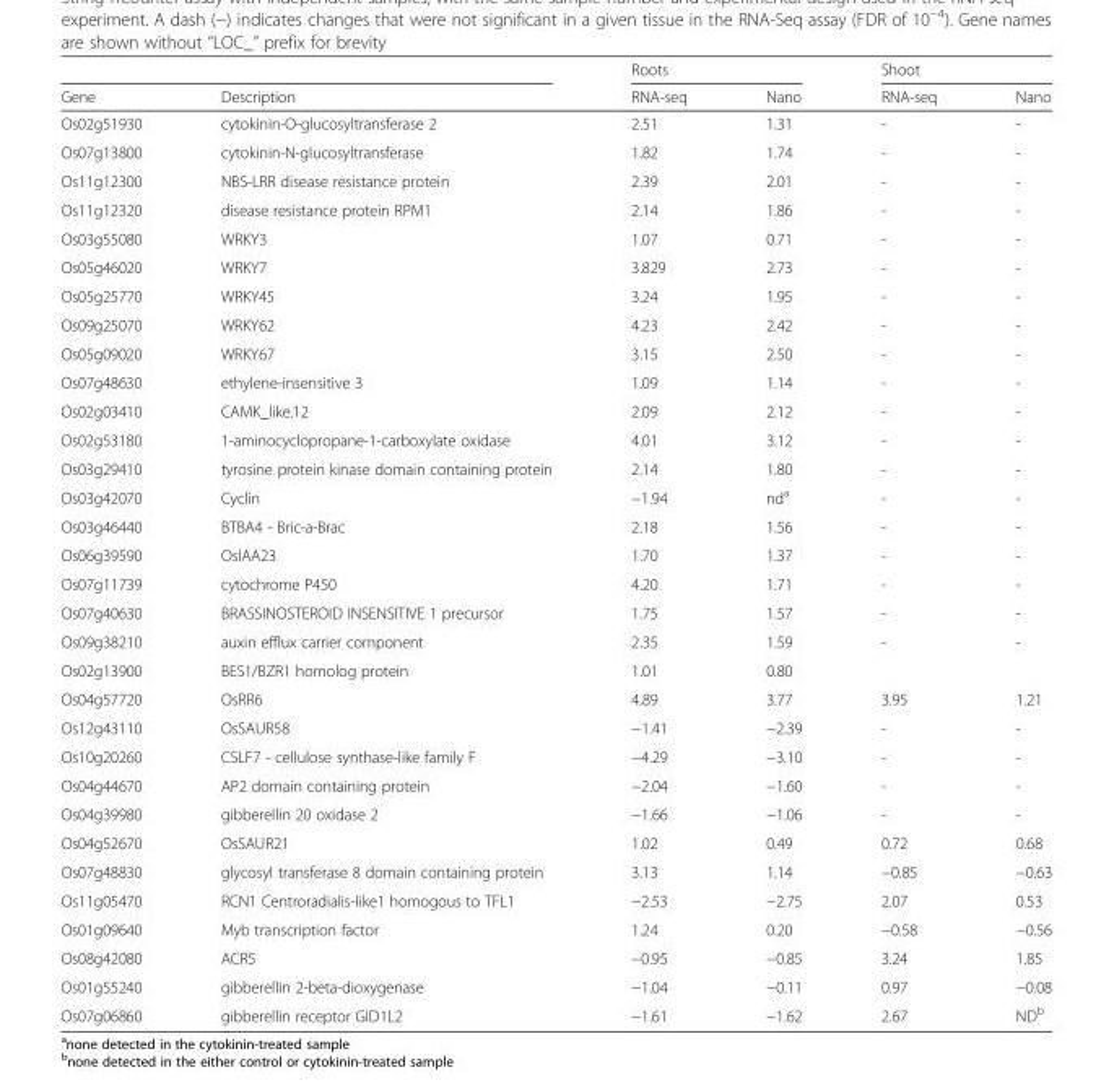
<table><thead><tr><td rowspan="2">Gene</td><td rowspan="2">Description</td><td colspan="2">Roots</td><td colspan="2">Shoot</td></tr><tr><td>RNA-seq</td><td>Nano</td><td>RNA-seq</td><td>Nano</td></tr></thead><tbody><tr><td>Os02g51930</td><td>cytokinin-O-glucosyltransferase 2</td><td>2.51</td><td>1.31</td><td>-</td><td>-</td></tr><tr><td>Os07g13800</td><td>cytokinin-N-glucosyltransferase</td><td>1.82</td><td>1.74</td><td>-</td><td>-</td></tr><tr><td>Os11g12300</td><td>NBS-LRR disease resistance protein</td><td>2.39</td><td>2.01</td><td>-</td><td>-</td></tr><tr><td>Os11g12320</td><td>disease resistance protein RPM1</td><td>2.14</td><td>1.86</td><td>-</td><td>-</td></tr><tr><td>Os03g55080</td><td>WRKY3</td><td>1.07</td><td>0.71</td><td>-</td><td>-</td></tr><tr><td>Os05g46020</td><td>WRKY7</td><td>3.829</td><td>2.73</td><td>-</td><td>-</td></tr><tr><td>Os05g25770</td><td>WRKY45</td><td>3.24</td><td>1.95</td><td>-</td><td>-</td></tr><tr><td>Os09g25070</td><td>WRKY62</td><td>4.23</td><td>2.42</td><td>-</td><td>-</td></tr><tr><td>Os05g09020</td><td>WRKY67</td><td>3.15</td><td>2.50</td><td>-</td><td>-</td></tr><tr><td>Os07g48630</td><td>ethylene-insensitive 3</td><td>1.09</td><td>1.14</td><td>-</td><td>-</td></tr><tr><td>Os02g03410</td><td>CAMK_like.12</td><td>2.09</td><td>2.12</td><td>-</td><td>-</td></tr><tr><td>Os02g53180</td><td>1-aminocyclopropane-1-carboxylate oxidase</td><td>4.01</td><td>3.12</td><td>-</td><td>-</td></tr><tr><td>Os03g29410</td><td>tyrosine protein kinase domain containing protein</td><td>2.14</td><td>1.80</td><td>-</td><td>-</td></tr><tr><td>Os03g42070</td><td>Cyclin</td><td>−1.94</td><td>nd<sup>a</sup></td><td>-</td><td>-</td></tr><tr><td>Os03g46440</td><td>BTBA4 - Bric-a-Brac</td><td>2.18</td><td>1.56</td><td>-</td><td>-</td></tr><tr><td>Os06g39590</td><td>OsIAA23</td><td>1.70</td><td>1.37</td><td>-</td><td>-</td></tr><tr><td>Os07g11739</td><td>cytochrome P450</td><td>4.20</td><td>1.71</td><td>-</td><td>-</td></tr><tr><td>Os07g40630</td><td>BRASSINOSTEROID INSENSITIVE 1 precursor</td><td>1.75</td><td>1.57</td><td>-</td><td>-</td></tr><tr><td>Os09g38210</td><td>auxin efflux carrier component</td><td>2.35</td><td>1.59</td><td>-</td><td>-</td></tr><tr><td>Os02g13900</td><td>BES1/BZR1 homolog protein</td><td>1.01</td><td>0.80</td><td></td><td></td></tr><tr><td>Os04g57720</td><td>OsRR6</td><td>4.89</td><td>3.77</td><td>3.95</td><td>1.21</td></tr><tr><td>Os12g43110</td><td>OsSAUR58</td><td>−1.41</td><td>−2.39</td><td>-</td><td>-</td></tr><tr><td>Os10g20260</td><td>CSLF7 - cellulose synthase-like family F</td><td>−4.29</td><td>−3.10</td><td>-</td><td>-</td></tr><tr><td>Os04g44670</td><td>AP2 domain containing protein</td><td>−2.04</td><td>−1.60</td><td>-</td><td>-</td></tr><tr><td>Os04g39980</td><td>gibberellin 20 oxidase 2</td><td>−1.66</td><td>−1.06</td><td>-</td><td>-</td></tr><tr><td>Os04g52670</td><td>OsSAUR21</td><td>1.02</td><td>0.49</td><td>0.72</td><td>0.68</td></tr><tr><td>Os07g48830</td><td>glycosyl transferase 8 domain containing protein</td><td>3.13</td><td>1.14</td><td>−0.85</td><td>−0.63</td></tr><tr><td>Os11g05470</td><td>RCN1 Centroradialis-like1 homogous to TFL1</td><td>−2.53</td><td>−2.75</td><td>2.07</td><td>0.53</td></tr><tr><td>Os01g09640</td><td>Myb transcription factor</td><td>1.24</td><td>0.20</td><td>−0.58</td><td>−0.56</td></tr><tr><td>Os08g42080</td><td>ACR5</td><td>−0.95</td><td>−0.85</td><td>3.24</td><td>1.85</td></tr><tr><td>Os01g55240</td><td>gibberellin 2-beta-dioxygenase</td><td>−1.04</td><td>−0.11</td><td>0.97</td><td>−0.08</td></tr><tr><td>Os07g06860</td><td>gibberellin receptor GID1L2</td><td>−1.61</td><td>−1.62</td><td>2.67</td><td>ND<sup>b</sup></td></tr></tbody></table>